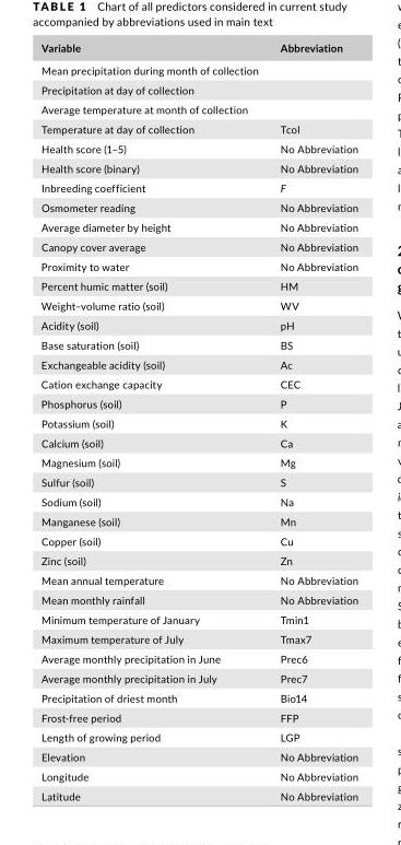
<table><thead><tr><td>Variable</td><td>Abbreviation</td></tr></thead><tbody><tr><td colspan="2">Mean precipitation during month of collection</td></tr><tr><td colspan="2">Precipitation at day of collection</td></tr><tr><td colspan="2">Average temperature at month of collection</td></tr><tr><td>Temperature at day of collection</td><td>Tcol</td></tr><tr><td>Health score (1–5)</td><td>No Abbreviation</td></tr><tr><td>Health score (binary)</td><td>No Abbreviation</td></tr><tr><td>Inbreeding coefficient</td><td>F</td></tr><tr><td>Osmometer reading</td><td>No Abbreviation</td></tr><tr><td>Average diameter by height</td><td>No Abbreviation</td></tr><tr><td>Canopy cover average</td><td>No Abbreviation</td></tr><tr><td>Proximity to water</td><td>No Abbreviation</td></tr><tr><td>Percent humic matter (soil)</td><td>HM</td></tr><tr><td>Weight–volume ratio (soil)</td><td>WV</td></tr><tr><td>Acidity (soil)</td><td>pH</td></tr><tr><td>Base saturation (soil)</td><td>BS</td></tr><tr><td>Exchangeable acidity (soil)</td><td>Ac</td></tr><tr><td>Cation exchange capacity</td><td>CEC</td></tr><tr><td>Phosphorus (soil)</td><td>P</td></tr><tr><td>Potassium (soil)</td><td>K</td></tr><tr><td>Calcium (soil)</td><td>Ca</td></tr><tr><td>Magnesium (soil)</td><td>Mg</td></tr><tr><td>Sulfur (soil)</td><td>S</td></tr><tr><td>Sodium (soil)</td><td>Na</td></tr><tr><td>Manganese (soil)</td><td>Mn</td></tr><tr><td>Copper (soil)</td><td>Cu</td></tr><tr><td>Zinc (soil)</td><td>Zn</td></tr><tr><td>Mean annual temperature</td><td>No Abbreviation</td></tr><tr><td>Mean monthly rainfall</td><td>No Abbreviation</td></tr><tr><td>Minimum temperature of January</td><td>Tmin1</td></tr><tr><td>Maximum temperature of July</td><td>Tmax7</td></tr><tr><td>Average monthly precipitation in June</td><td>Prec6</td></tr><tr><td>Average monthly precipitation in July</td><td>Prec7</td></tr><tr><td>Precipitation of driest month</td><td>Bio14</td></tr><tr><td>Frost- free period</td><td>FFP</td></tr><tr><td>Length of growing period</td><td>LGP</td></tr><tr><td>Elevation</td><td>No Abbreviation</td></tr><tr><td>Longitude</td><td>No Abbreviation</td></tr><tr><td>Latitude</td><td>No Abbreviation</td></tr></tbody></table>